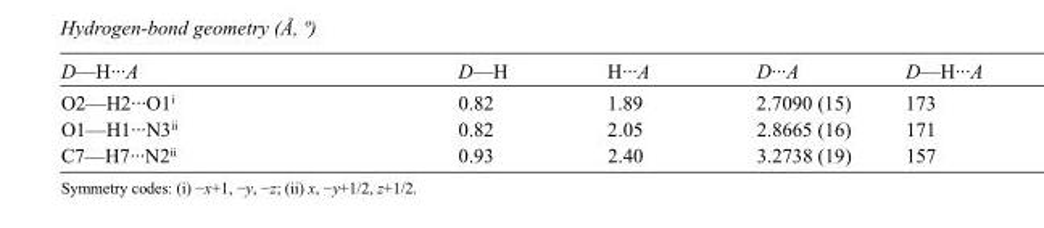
<table><tbody><tr><td>D—H···A</td><td>D—H</td><td>H···A</td><td>D···A</td><td>D—H···A</td></tr><tr><td>O2—H2···O1<sup>i</sup></td><td>0.82</td><td>1.89</td><td>2.7090 (15)</td><td>173</td></tr><tr><td>O1—H1···N3<sup>ii</sup></td><td>0.82</td><td>2.05</td><td>2.8665 (16)</td><td>171</td></tr><tr><td>C7—H7···N2<sup>ii</sup></td><td>0.93</td><td>2.40</td><td>3.2738 (19)</td><td>157</td></tr></tbody></table>